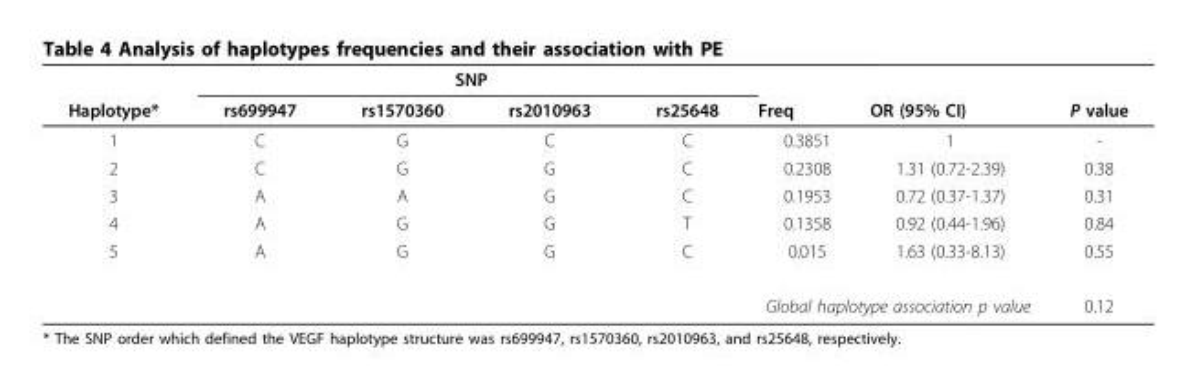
<table><thead><tr><td rowspan="2">Haplotype*</td><td colspan="4">SNP</td><td rowspan="2">Freq</td><td rowspan="2">OR (95% CI)</td><td rowspan="2">P value</td></tr><tr><td>rs699947</td><td>rs1570360</td><td>rs2010963</td><td>rs25648</td></tr></thead><tbody><tr><td>1</td><td>C</td><td>G</td><td>C</td><td>C</td><td>0.3851</td><td>1</td><td>-</td></tr><tr><td>2</td><td>C</td><td>G</td><td>G</td><td>C</td><td>0.2308</td><td>1.31 (0.72-2.39)</td><td>0.38</td></tr><tr><td>3</td><td>A</td><td>A</td><td>G</td><td>C</td><td>0.1953</td><td>0.72 (0.37-1.37)</td><td>0.31</td></tr><tr><td>4</td><td>A</td><td>G</td><td>G</td><td>T</td><td>0.1358</td><td>0.92 (0.44-1.96)</td><td>0.84</td></tr><tr><td>5</td><td>A</td><td>G</td><td>G</td><td>C</td><td>0.015</td><td>1.63 (0.33-8.13)</td><td>0.55</td></tr><tr><td colspan="7">Global haplotype association p value</td><td>0.12</td></tr></tbody></table>